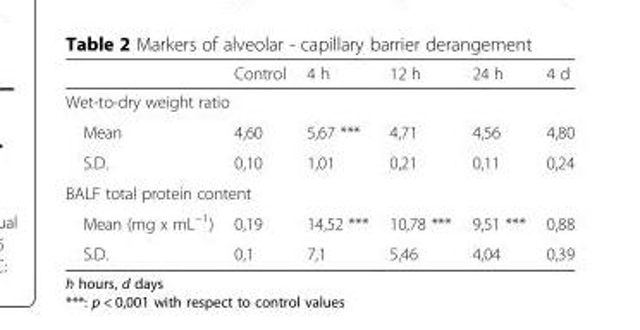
<table><thead><tr><td></td><td>Control</td><td>4 h</td><td>12 h</td><td>24 h</td><td>4 d</td></tr></thead><tbody><tr><td colspan="6">Wet-to-dry weight ratio</td></tr><tr><td>Mean</td><td>4,60</td><td>5,67 ***</td><td>4,71</td><td>4,56</td><td>4,80</td></tr><tr><td>S.D.</td><td>0,10</td><td>1,01</td><td>0,21</td><td>0,11</td><td>0,24</td></tr><tr><td colspan="6">BALF total protein content</td></tr><tr><td>Mean (mg x mL<sup>−1</sup>)</td><td>0,19</td><td>14,52 ***</td><td>10,78 ***</td><td>9,51 ***</td><td>0,88</td></tr><tr><td>S.D.</td><td>0,1</td><td>7,1</td><td>5,46</td><td>4,04</td><td>0,39</td></tr></tbody></table>